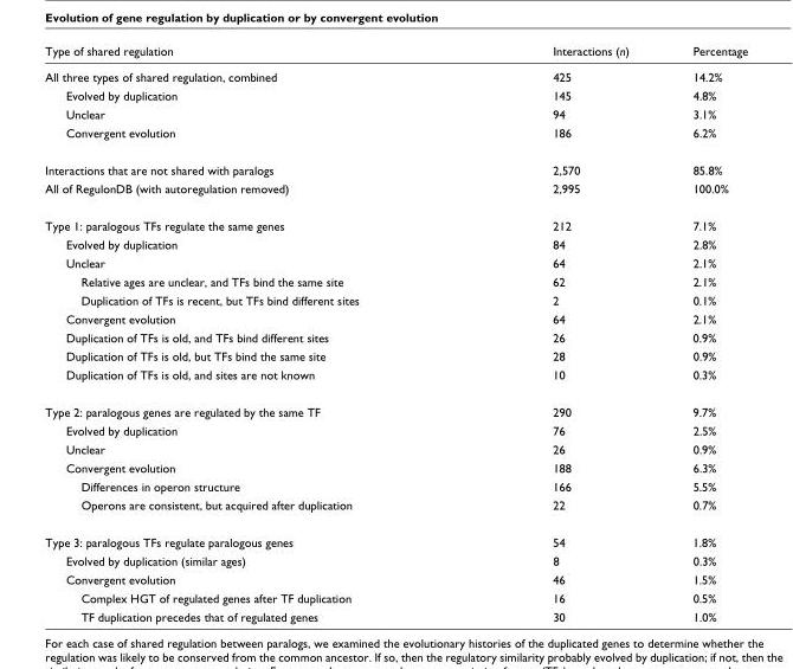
<table><thead><tr><td>Type of shared regulation</td><td>Interactions (n)</td><td>Percentage</td></tr></thead><tbody><tr><td>All three types of shared regulation, combined</td><td>425</td><td>14.2%</td></tr><tr><td>Evolved by duplication</td><td>145</td><td>4.8%</td></tr><tr><td>Unclear</td><td>94</td><td>3.1%</td></tr><tr><td>Convergent evolution</td><td>186</td><td>6.2%</td></tr><tr><td>Interactions that are not shared with paralogs</td><td>2,570</td><td>85.8%</td></tr><tr><td>All of RegulonDB (with autoregulation removed)</td><td>2,995</td><td>100.0%</td></tr><tr><td>Type 1: paralogous TFs regulate the same genes</td><td>212</td><td>7.1%</td></tr><tr><td>Evolved by duplication</td><td>84</td><td>2.8%</td></tr><tr><td>Unclear</td><td>64</td><td>2.1%</td></tr><tr><td>Relative ages are unclear, and TFs bind the same site</td><td>62</td><td>2.1%</td></tr><tr><td>Duplication of TFs is recent, but TFs bind different sites</td><td>2</td><td>0.1%</td></tr><tr><td>Convergent evolution</td><td>64</td><td>2.1%</td></tr><tr><td>Duplication of TFs is old, and TFs bind different sites</td><td>26</td><td>0.9%</td></tr><tr><td>Duplication of TFs is old, but TFs bind the same site</td><td>28</td><td>0.9%</td></tr><tr><td>Duplication of TFs is old, and sites are not known</td><td>10</td><td>0.3%</td></tr><tr><td>Type 2: paralogous genes are regulated by the same TF</td><td>290</td><td>9.7%</td></tr><tr><td>Evolved by duplication</td><td>76</td><td>2.5%</td></tr><tr><td>Unclear</td><td>26</td><td>0.9%</td></tr><tr><td>Convergent evolution</td><td>188</td><td>6.3%</td></tr><tr><td>Differences in operon structure</td><td>166</td><td>5.5%</td></tr><tr><td>Operons are consistent, but acquired after duplication</td><td>22</td><td>0.7%</td></tr><tr><td>Type 3: paralogous TFs regulate paralogous genes</td><td>54</td><td>1.8%</td></tr><tr><td>Evolved by duplication (similar ages)</td><td>8</td><td>0.3%</td></tr><tr><td>Convergent evolution</td><td>46</td><td>1.5%</td></tr><tr><td>Complex HGT of regulated genes after TF duplication</td><td>16</td><td>0.5%</td></tr><tr><td>TF duplication precedes that of regulated genes</td><td>30</td><td>1.0%</td></tr></tbody></table>